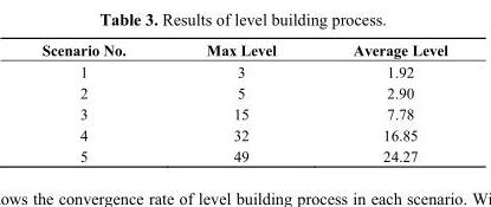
<table><thead><tr><td>Scenario No.</td><td>Max Level</td><td>Average Level</td></tr></thead><tbody><tr><td>1</td><td>3</td><td>1.92</td></tr><tr><td>2</td><td>5</td><td>2.90</td></tr><tr><td>3</td><td>15</td><td>7.78</td></tr><tr><td>4</td><td>32</td><td>16.85</td></tr><tr><td>5</td><td>49</td><td>24.27</td></tr></tbody></table>